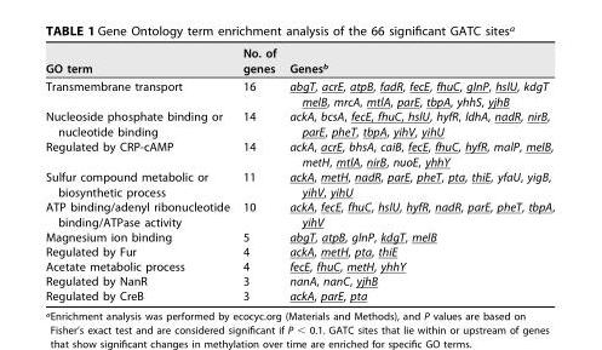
<table><thead><tr><td>GO term</td><td>No. of genes</td><td>Genes<sup>b</sup></td></tr></thead><tbody><tr><td>Transmembrane transport</td><td>16</td><td>abgT, acrE, atpB, fadR, fecE, fhuC, glnP, hslU, kdgT melB, mrcA, mtlA, parE, tbpA, yhhS, yjhB</td></tr><tr><td>Nucleoside phosphate binding or nucleotide binding</td><td>14</td><td>ackA, bcsA, fecE, fhuC, hslU, hyfR, ldhA, nadR, nirB, parE, pheT, tbpA, yihV, yihU</td></tr><tr><td>Regulated by CRP-cAMP</td><td>14</td><td>ackA, acrE, bhsA, caiB, fecE, fhuC, hyfR, malP, melB, metH, mtlA, nirB, nuoE, yhhY</td></tr><tr><td>Sulfur compound metabolic or biosynthetic process</td><td>11</td><td>ackA, metH, nadR, parE, pheT, pta, thiE, yfaU, yigB, yihV, yihU</td></tr><tr><td>ATP binding/adenyl ribonucleotide binding/ATPase activity</td><td>10</td><td>ackA, fecE, fhuC, hslU, hyfR, nadR, parE, pheT, tbpA, yihV</td></tr><tr><td>Magnesium ion binding</td><td>5</td><td>abgT, atpB, glnP, kdgT, melB</td></tr><tr><td>Regulated by Fur</td><td>4</td><td>ackA, metH, pta, thiE</td></tr><tr><td>Acetate metabolic process</td><td>4</td><td>fecE, fhuC, metH, yhhY</td></tr><tr><td>Regulated by NanR</td><td>3</td><td>nanA, nanC, yjhB</td></tr><tr><td>Regulated by CreB</td><td>3</td><td>ackA, parE, pta</td></tr></tbody></table>